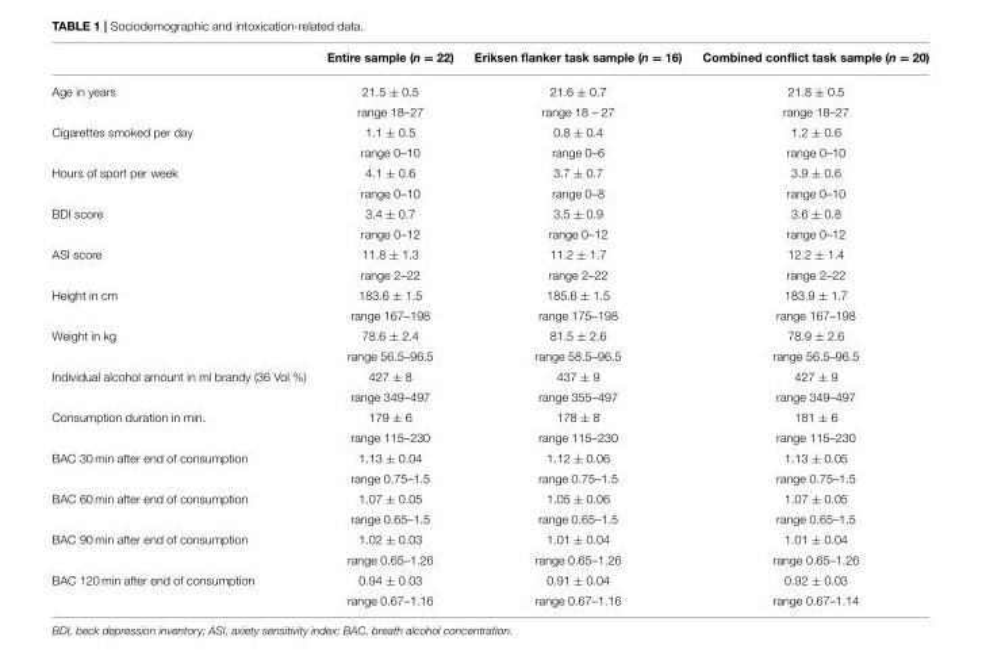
<table><thead><tr><td></td><td>Entire sample (n = 22)</td><td>Eriksen flanker task sample (n = 16)</td><td>Combined conflict task sample (n = 20)</td></tr></thead><tbody><tr><td rowspan="2">Age in years</td><td>21.5 ± 0.5</td><td>21.6 ± 0.7</td><td>21.8 ± 0.5</td></tr><tr><td>range 18–27</td><td>range 18 – 27</td><td>range 18–27</td></tr><tr><td rowspan="2">Cigarettes smoked per day</td><td>1.1 ± 0.5</td><td>0.8 ± 0.4</td><td>1.2 ± 0.6</td></tr><tr><td>range 0–10</td><td>range 0–6</td><td>range 0–10</td></tr><tr><td rowspan="2">Hours of sport per week</td><td>4.1 ± 0.6</td><td>3.7 ± 0.7</td><td>3.9 ± 0.6</td></tr><tr><td>range 0–10</td><td>range 0–8</td><td>range 0–10</td></tr><tr><td rowspan="2">BDI score</td><td>3.4 ± 0.7</td><td>3.5 ± 0.9</td><td>3.6 ± 0.8</td></tr><tr><td>range 0–12</td><td>range 0–12</td><td>range 0–12</td></tr><tr><td rowspan="2">ASI score</td><td>11.8 ± 1.3</td><td>11.2 ± 1.7</td><td>12.2 ± 1.4</td></tr><tr><td>range 2–22</td><td>range 2–22</td><td>range 2–22</td></tr><tr><td rowspan="2">Height in cm</td><td>183.6 ± 1.5</td><td>185.6 ± 1.5</td><td>183.9 ± 1.7</td></tr><tr><td>range 167–198</td><td>range 175–198</td><td>range 167–198</td></tr><tr><td rowspan="2">Weight in kg</td><td>78.6 ± 2.4</td><td>81.5 ± 2.6</td><td>78.9 ± 2.6</td></tr><tr><td>range 56.5–96.5</td><td>range 58.5–96.5</td><td>range 56.5–96.5</td></tr><tr><td rowspan="2">Individual alcohol amount in ml brandy (36 Vol %)</td><td>427 ± 8</td><td>437 ± 9</td><td>427 ± 9</td></tr><tr><td>range 349–497</td><td>range 355–497</td><td>range 349–497</td></tr><tr><td rowspan="2">Consumption duration in min.</td><td>179 ± 6</td><td>178 ± 8</td><td>181 ± 6</td></tr><tr><td>range 115–230</td><td>range 115–230</td><td>range 115–230</td></tr><tr><td rowspan="2">BAC 30 min after end of consumption</td><td>1.13 ± 0.04</td><td>1.12 ± 0.06</td><td>1.13 ± 0.05</td></tr><tr><td>range 0.75–1.5</td><td>range 0.75–1.5</td><td>range 0.75–1.5</td></tr><tr><td rowspan="2">BAC 60 min after end of consumption</td><td>1.07 ± 0.05</td><td>1.05 ± 0.06</td><td>1.07 ± 0.05</td></tr><tr><td>range 0.65–1.5</td><td>range 0.65–1.5</td><td>range 0.65–1.5</td></tr><tr><td rowspan="2">BAC 90 min after end of consumption</td><td>1.02 ± 0.03</td><td>1.01 ± 0.04</td><td>1.01 ± 0.04</td></tr><tr><td>range 0.65–1.26</td><td>range 0.65–1.26</td><td>range 0.65–1.26</td></tr><tr><td rowspan="2">BAC 120 min after end of consumption</td><td>0.94 ± 0.03</td><td>0.91 ± 0.04</td><td>0.92 ± 0.03</td></tr><tr><td>range 0.67–1.16</td><td>range 0.67–1.16</td><td>range 0.67–1.14</td></tr></tbody></table>